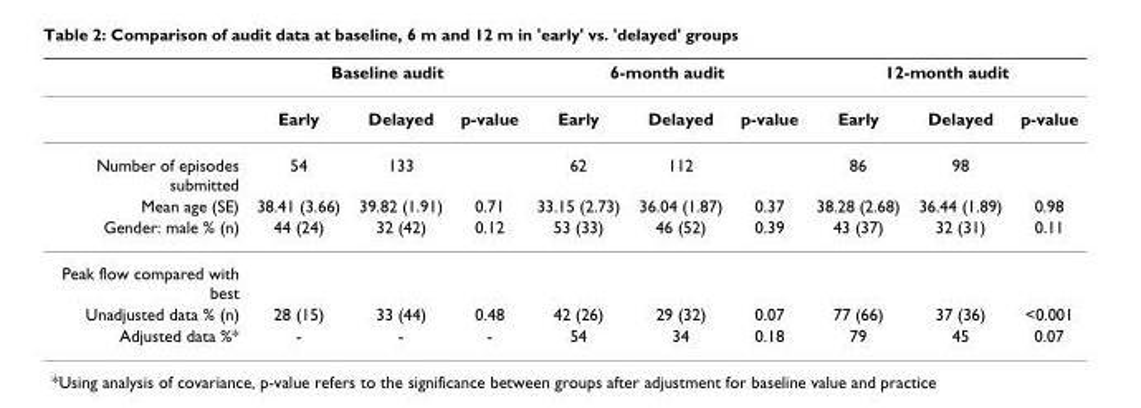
<table><thead><tr><td rowspan="2"></td><td colspan="3">Baseline audit</td><td colspan="3">6-month audit</td><td colspan="3">12-month audit</td></tr><tr><td>Early</td><td>Delayed</td><td>p-value</td><td>Early</td><td>Delayed</td><td>p-value</td><td>Early</td><td>Delayed</td><td>p-value</td></tr></thead><tbody><tr><td>Number of episodes submitted</td><td>54</td><td>133</td><td></td><td>62</td><td>112</td><td></td><td>86</td><td>98</td><td></td></tr><tr><td>Mean age (SE)</td><td>38.41 (3.66)</td><td>39.82 (1.91)</td><td>0.71</td><td>33.15 (2.73)</td><td>36.04 (1.87)</td><td>0.37</td><td>38.28 (2.68)</td><td>36.44 (1.89)</td><td>0.98</td></tr><tr><td>Gender: male % (n)</td><td>44 (24)</td><td>32 (42)</td><td>0.12</td><td>53 (33)</td><td>46 (52)</td><td>0.39</td><td>43 (37)</td><td>32 (31)</td><td>0.11</td></tr><tr><td colspan="10">Peak flow compared with best</td></tr><tr><td>Unadjusted data % (n)</td><td>28 (15)</td><td>33 (44)</td><td>0.48</td><td>42 (26)</td><td>29 (32)</td><td>0.07</td><td>77 (66)</td><td>37 (36)</td><td>&lt;0.001</td></tr><tr><td>Adjusted data %*</td><td>-</td><td>-</td><td>-</td><td>54</td><td>34</td><td>0.18</td><td>79</td><td>45</td><td>0.07</td></tr></tbody></table>